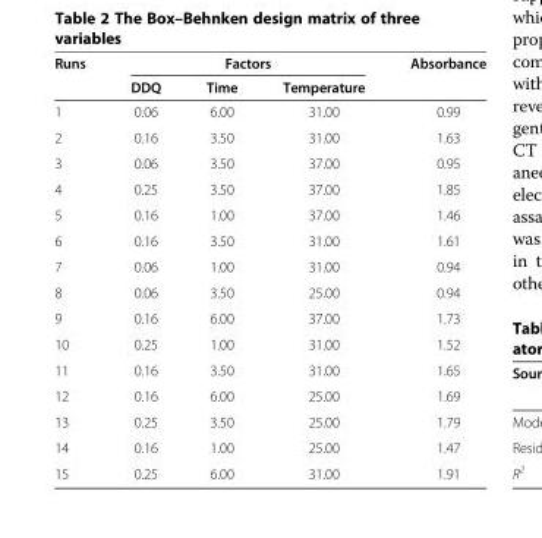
<table><thead><tr><td rowspan="2">Runs</td><td colspan="3">Factors</td><td rowspan="2">Absorbance</td></tr><tr><td>DDQ</td><td>Time</td><td>Temperature</td></tr></thead><tbody><tr><td>1</td><td>0.06</td><td>6.00</td><td>31.00</td><td>0.99</td></tr><tr><td>2</td><td>0.16</td><td>3.50</td><td>31.00</td><td>1.63</td></tr><tr><td>3</td><td>0.06</td><td>3.50</td><td>37.00</td><td>0.95</td></tr><tr><td>4</td><td>0.25</td><td>3.50</td><td>37.00</td><td>1.85</td></tr><tr><td>5</td><td>0.16</td><td>1.00</td><td>37.00</td><td>1.46</td></tr><tr><td>6</td><td>0.16</td><td>3.50</td><td>31.00</td><td>1.61</td></tr><tr><td>7</td><td>0.06</td><td>1.00</td><td>31.00</td><td>0.94</td></tr><tr><td>8</td><td>0.06</td><td>3.50</td><td>25.00</td><td>0.94</td></tr><tr><td>9</td><td>0.16</td><td>6.00</td><td>37.00</td><td>1.73</td></tr><tr><td>10</td><td>0.25</td><td>1.00</td><td>31.00</td><td>1.52</td></tr><tr><td>11</td><td>0.16</td><td>3.50</td><td>31.00</td><td>1.65</td></tr><tr><td>12</td><td>0.16</td><td>6.00</td><td>25.00</td><td>1.69</td></tr><tr><td>13</td><td>0.25</td><td>3.50</td><td>25.00</td><td>1.79</td></tr><tr><td>14</td><td>0.16</td><td>1.00</td><td>25.00</td><td>1.47</td></tr><tr><td>15</td><td>0.25</td><td>6.00</td><td>31.00</td><td>1.91</td></tr></tbody></table>